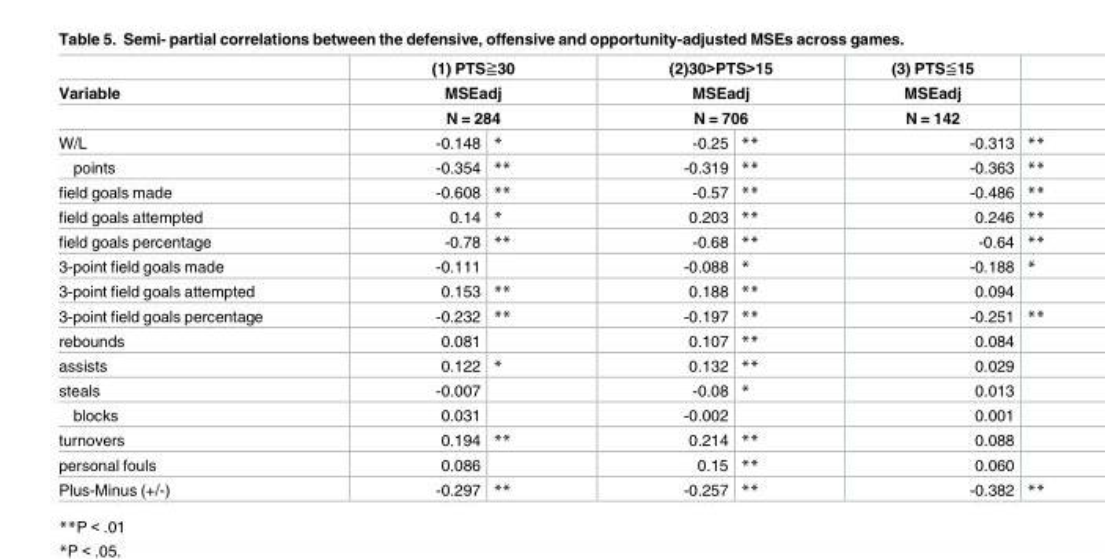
<table><thead><tr><td rowspan="4">Variable W/L</td><td rowspan="3" colspan="2">(1) PTS≧30 MSEadj N = 284</td><td rowspan="3" colspan="2">(2)30&gt;PTS&gt;15 MSEadj N = 706</td><td rowspan="4">(3) PTS≦15 MSEadj N = 142 -0.313</td><td rowspan="4">**</td></tr><tr></tr><tr></tr><tr><td>-0.148</td><td>*</td><td>-0.25</td><td>**</td></tr></thead><tbody><tr><td>points</td><td>-0.354</td><td>**</td><td>-0.319</td><td>**</td><td>-0.363</td><td>**</td></tr><tr><td>field goals made</td><td>-0.608</td><td>**</td><td>-0.57</td><td>**</td><td>-0.486</td><td>**</td></tr><tr><td>field goals attempted</td><td>0.14</td><td>*</td><td>0.203</td><td>**</td><td>0.246</td><td>**</td></tr><tr><td>field goals percentage</td><td>-0.78</td><td>**</td><td>-0.68</td><td>**</td><td>-0.64</td><td>**</td></tr><tr><td>3-point field goals made</td><td>-0.111</td><td></td><td>-0.088</td><td>*</td><td>-0.188</td><td>*</td></tr><tr><td>3-point field goals attempted</td><td>0.153</td><td>**</td><td>0.188</td><td>**</td><td>0.094</td><td></td></tr><tr><td>3-point field goals percentage</td><td>-0.232</td><td>**</td><td>-0.197</td><td>**</td><td>-0.251</td><td>**</td></tr><tr><td>rebounds</td><td>0.081</td><td></td><td>0.107</td><td>**</td><td>0.084</td><td></td></tr><tr><td>assists</td><td>0.122</td><td>*</td><td>0.132</td><td>**</td><td>0.029</td><td></td></tr><tr><td>steals</td><td>-0.007</td><td></td><td>-0.08</td><td>*</td><td>0.013</td><td></td></tr><tr><td>blocks</td><td>0.031</td><td></td><td>-0.002</td><td></td><td>0.001</td><td></td></tr><tr><td>turnovers</td><td>0.194</td><td>**</td><td>0.214</td><td>**</td><td>0.088</td><td></td></tr><tr><td>personal fouls</td><td>0.086</td><td></td><td>0.15</td><td>**</td><td>0.060</td><td></td></tr><tr><td>Plus-Minus (+/-)</td><td>-0.297</td><td>**</td><td>-0.257</td><td>**</td><td>-0.382</td><td>**</td></tr></tbody></table>